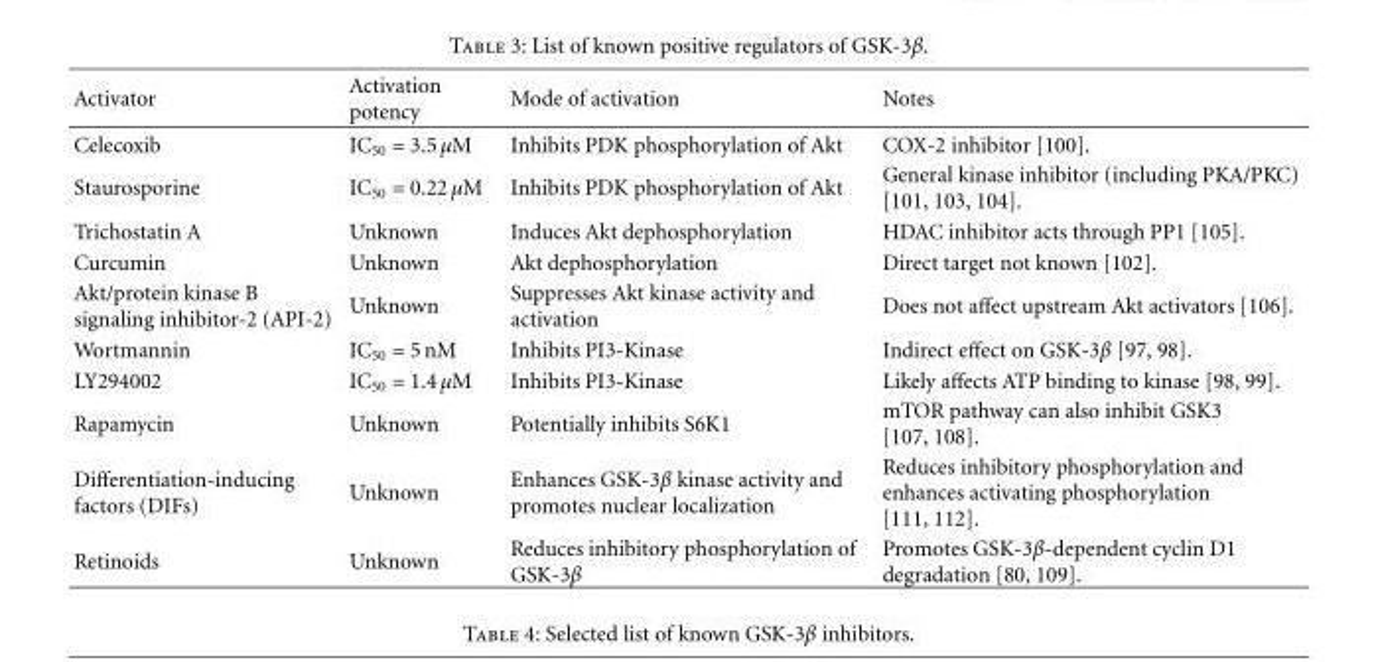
<table><thead><tr><td>Activator</td><td>Activation potency</td><td>Mode of activation</td><td>Notes</td></tr></thead><tbody><tr><td>Celecoxib</td><td>IC<sub>50</sub> = 3.5 μM</td><td>Inhibits PDK phosphorylation of Akt</td><td>COX-2 inhibitor [100].</td></tr><tr><td>Staurosporine</td><td>IC<sub>50</sub> = 0.22 μM</td><td>Inhibits PDK phosphorylation of Akt</td><td>General kinase inhibitor (including PKA/PKC) [101, 103, 104].</td></tr><tr><td>Trichostatin A</td><td>Unknown</td><td>Induces Akt dephosphorylation</td><td>HDAC inhibitor acts through PP1 [105].</td></tr><tr><td>Curcumin</td><td>Unknown</td><td>Akt dephosphorylation</td><td>Direct target not known [102].</td></tr><tr><td>Akt/protein kinase B signaling inhibitor-2 (API-2)</td><td>Unknown</td><td>Suppresses Akt kinase activity and activation</td><td>Does not affect upstream Akt activators [106].</td></tr><tr><td>Wortmannin</td><td>IC<sub>50</sub> = 5 nM</td><td>Inhibits PI3-Kinase</td><td>Indirect effect on GSK-3β [97, 98].</td></tr><tr><td>LY294002</td><td>IC<sub>50</sub> = 1.4 μM</td><td>Inhibits PI3-Kinase</td><td>Likely affects ATP binding to kinase [98, 99].</td></tr><tr><td>Rapamycin</td><td>Unknown</td><td>Potentially inhibits S6K1</td><td>mTOR pathway can also inhibit GSK3 [107, 108].</td></tr><tr><td>Differentiation-inducing factors (DIFs)</td><td>Unknown</td><td>Enhances GSK-3β kinase activity and promotes nuclear localization</td><td>Reduces inhibitory phosphorylation and enhances activating phosphorylation [111, 112].</td></tr><tr><td>Retinoids</td><td>Unknown</td><td>Reduces inhibitory phosphorylation of GSK-3β</td><td>Promotes GSK-3β-dependent cyclin D1 degradation [80, 109].</td></tr></tbody></table>